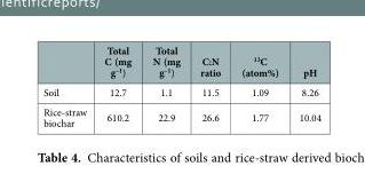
<table><thead><tr><td></td><td>Total C (mg g<sup>–1</sup>)</td><td>Total N (mg g<sup>–1</sup>)</td><td>C:N ratio</td><td><sup>13</sup>C (atom%)</td><td>pH</td></tr></thead><tbody><tr><td>Soil</td><td>12.7</td><td>1.1</td><td>11.5</td><td>1.09</td><td>8.26</td></tr><tr><td>Rice-straw biochar</td><td>610.2</td><td>22.9</td><td>26.6</td><td>1.77</td><td>10.04</td></tr></tbody></table>